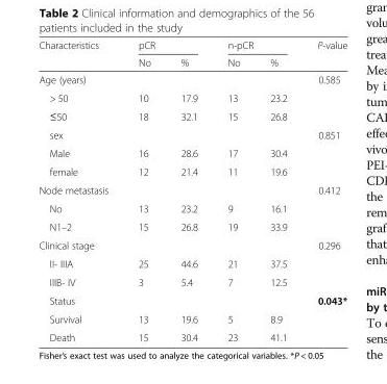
<table><thead><tr><td rowspan="2">Characteristics</td><td colspan="2">pCR</td><td colspan="2">n-pCR</td><td rowspan="2">P-value</td></tr><tr><td>No</td><td>%</td><td>No</td><td>%</td></tr></thead><tbody><tr><td>Age (years)</td><td></td><td></td><td></td><td></td><td>0.585</td></tr><tr><td>&gt; 50</td><td>10</td><td>17.9</td><td>13</td><td>23.2</td><td></td></tr><tr><td>≤50</td><td>18</td><td>32.1</td><td>15</td><td>26.8</td><td></td></tr><tr><td>sex</td><td></td><td></td><td></td><td></td><td>0.851</td></tr><tr><td>Male</td><td>16</td><td>28.6</td><td>17</td><td>30.4</td><td></td></tr><tr><td>female</td><td>12</td><td>21.4</td><td>11</td><td>19.6</td><td></td></tr><tr><td>Node metastasis</td><td></td><td></td><td></td><td></td><td>0.412</td></tr><tr><td>No</td><td>13</td><td>23.2</td><td>9</td><td>16.1</td><td></td></tr><tr><td>N1–2</td><td>15</td><td>26.8</td><td>19</td><td>33.9</td><td></td></tr><tr><td>Clinical stage</td><td></td><td></td><td></td><td></td><td>0.296</td></tr><tr><td>II- IIIA</td><td>25</td><td>44.6</td><td>21</td><td>37.5</td><td></td></tr><tr><td>IIIB- IV</td><td>3</td><td>5.4</td><td>7</td><td>12.5</td><td></td></tr><tr><td>Status</td><td></td><td></td><td></td><td></td><td>0.043*</td></tr><tr><td>Survival</td><td>13</td><td>19.6</td><td>5</td><td>8.9</td><td></td></tr><tr><td>Death</td><td>15</td><td>30.4</td><td>23</td><td>41.1</td><td></td></tr></tbody></table>